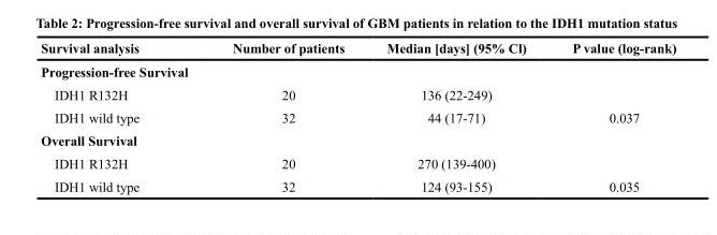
<table><thead><tr><td>Survival analysis</td><td>Number of patients</td><td>Median [days] (95% Cl)</td><td>P value (log-rank)</td></tr></thead><tbody><tr><td colspan="4">Progression-free Survival</td></tr><tr><td>IDH1 R132H</td><td>20</td><td>136 (22-249)</td><td></td></tr><tr><td>IDH1 wild type</td><td>32</td><td>44 (17-71)</td><td>0.037</td></tr><tr><td colspan="4">Overall Survival</td></tr><tr><td>IDH1 R132H</td><td>20</td><td>270 (139-400)</td><td></td></tr><tr><td>IDH1 wild type</td><td>32</td><td>124 (93-155)</td><td>0.035</td></tr></tbody></table>